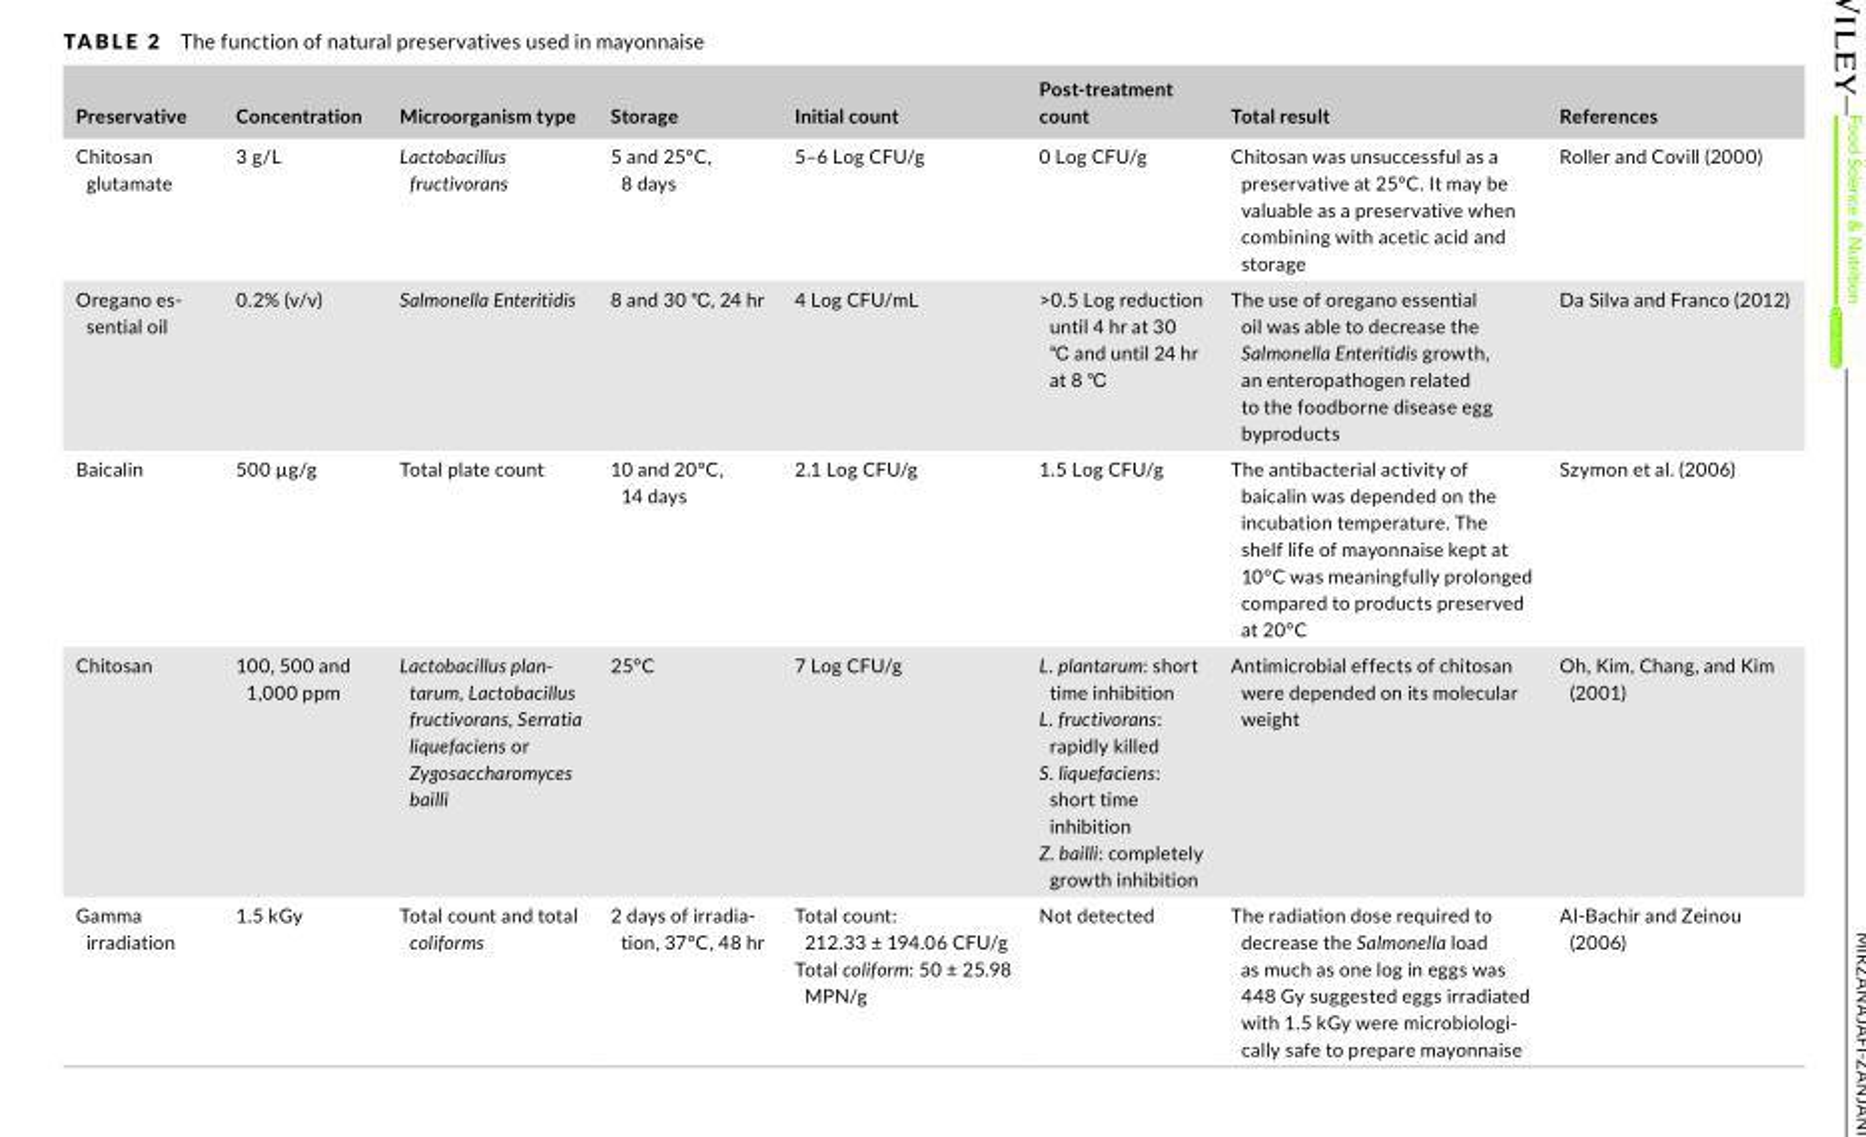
<table><thead><tr><td>Preservative</td><td>Concentration</td><td>Microorganism type</td><td>Storage</td><td>Initial count</td><td>Post-treatment count</td><td>Total result</td><td>References</td></tr></thead><tbody><tr><td>Chitosan glutamate</td><td>3 g/L</td><td>Lactobacillus fructivorans</td><td>5 and 25°C, 8 days</td><td>5–6 Log CFU/g</td><td>0 Log CFU/g</td><td>Chitosan was unsuccessful as a preservative at 25°C. It may be valuable as a preservative when combining with acetic acid and storage</td><td>Roller and Covill (2000)</td></tr><tr><td>Oregano es- sential oil</td><td>0.2% (v/v)</td><td>Salmonella Enteritidis</td><td>8 and 30 ℃, 24 hr</td><td>4 Log CFU/mL</td><td>&gt;0.5 Log reduction until 4 hr at 30 ℃ and until 24 hr at 8 ℃</td><td>The use of oregano essential oil was able to decrease the Salmonella Enteritidis growth, an enteropathogen related to the foodborne disease egg byproducts</td><td>Da Silva and Franco (2012)</td></tr><tr><td>Baicalin</td><td>500 µg/g</td><td>Total plate count</td><td>10 and 20°C, 14 days</td><td>2.1 Log CFU/g</td><td>1.5 Log CFU/g</td><td>The antibacterial activity of baicalin was depended on the incubation temperature. The shelf life of mayonnaise kept at 10°C was meaningfully prolonged compared to products preserved at 20°C</td><td>Szymon et al. (2006)</td></tr><tr><td>Chitosan</td><td>100, 500 and 1,000 ppm</td><td>Lactobacillus plan‐ tarum, Lactobacillus fructivorans, Serratia liquefaciens or Zygosaccharomyces bailli</td><td>25°C</td><td>7 Log CFU/g</td><td>L. plantarum: short time inhibition L. fructivorans: rapidly killed S. liquefaciens: short time inhibition Z. bailli: completely growth inhibition</td><td>Antimicrobial effects of chitosan were depended on its molecular weight</td><td>Oh, Kim, Chang, and Kim (2001)</td></tr><tr><td>Gamma irradiation</td><td>1.5 kGy</td><td>Total count and total coliforms</td><td>2 days of irradia- tion, 37°C, 48 hr</td><td>Total count: 212.33 ± 194.06 CFU/g Total coliform: 50 ± 25.98 MPN/g</td><td>Not detected</td><td>The radiation dose required to decrease the Salmonella load as much as one log in eggs was 448 Gy suggested eggs irradiated with 1.5 kGy were microbiologi- cally safe to prepare mayonnaise</td><td>Al‐Bachir and Zeinou (2006)</td></tr></tbody></table>